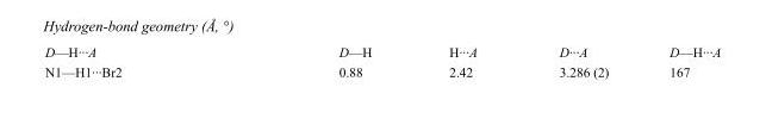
<table><tbody><tr><td>D—H···A</td><td>D—H</td><td>H···A</td><td>D···A</td><td>D—H···A</td></tr><tr><td>N1—H1···Br2</td><td>0.88</td><td>2.42</td><td>3.286 (2)</td><td>167</td></tr></tbody></table>